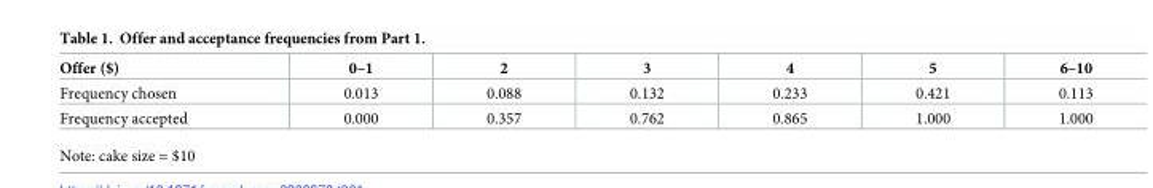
<table><thead><tr><td>Offer ($)</td><td>0–1</td><td>2</td><td>3</td><td>4</td><td>5</td><td>6–10</td></tr></thead><tbody><tr><td>Frequency chosen</td><td>0.013</td><td>0.088</td><td>0.132</td><td>0.233</td><td>0.421</td><td>0.113</td></tr><tr><td>Frequency accepted</td><td>0.000</td><td>0.357</td><td>0.762</td><td>0.865</td><td>1.000</td><td>1.000</td></tr></tbody></table>